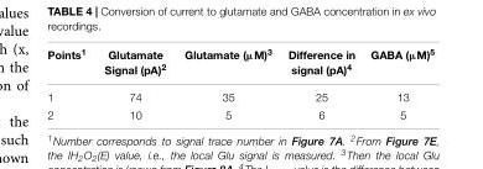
<table><thead><tr><td>Points<sup>1</sup></td><td>Glutamate Signal (pA)<sup>2</sup></td><td>Glutamate (µM)<sup>3</sup></td><td>Difference in signal (pA)<sup>4</sup></td><td>GABA (µM)<sup>5</sup></td></tr></thead><tbody><tr><td>1</td><td>74</td><td>35</td><td>25</td><td>13</td></tr><tr><td>2</td><td>10</td><td>5</td><td>6</td><td>5</td></tr></tbody></table>